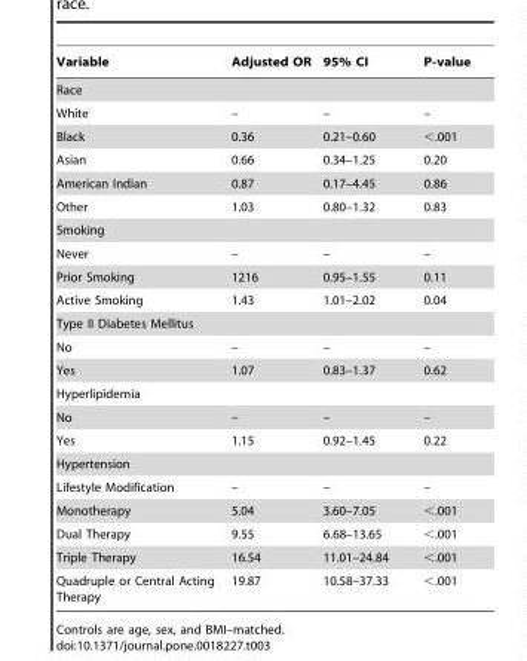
<table><thead><tr><td>Variable</td><td>Adjusted OR</td><td>95% CI</td><td>P-value</td></tr></thead><tbody><tr><td colspan="4">Race</td></tr><tr><td>White</td><td>–</td><td>–</td><td>–</td></tr><tr><td>Black</td><td>0.36</td><td>0.21–0.60</td><td>&lt;.001</td></tr><tr><td>Asian</td><td>0.66</td><td>0.34–1.25</td><td>0.20</td></tr><tr><td>American Indian</td><td>0.87</td><td>0.17–4.45</td><td>0.86</td></tr><tr><td>Other</td><td>1.03</td><td>0.80–1.32</td><td>0.83</td></tr><tr><td colspan="4">Smoking</td></tr><tr><td>Never</td><td>–</td><td>–</td><td>–</td></tr><tr><td>Prior Smoking</td><td>1216</td><td>0.95–1.55</td><td>0.11</td></tr><tr><td>Active Smoking</td><td>1.43</td><td>1.01–2.02</td><td>0.04</td></tr><tr><td colspan="4">Type II Diabetes Mellitus</td></tr><tr><td>No</td><td>–</td><td>–</td><td>–</td></tr><tr><td>Yes</td><td>1.07</td><td>0.83–1.37</td><td>0.62</td></tr><tr><td colspan="4">Hyperlipidemia</td></tr><tr><td>No</td><td>–</td><td>–</td><td>–</td></tr><tr><td>Yes</td><td>1.15</td><td>0.92–1.45</td><td>0.22</td></tr><tr><td colspan="4">Hypertension</td></tr><tr><td>Lifestyle Modification</td><td>–</td><td>–</td><td>–</td></tr><tr><td>Monotherapy</td><td>5.04</td><td>3.60–7.05</td><td>&lt;.001</td></tr><tr><td>Dual Therapy</td><td>9.55</td><td>6.68–13.65</td><td>&lt;.001</td></tr><tr><td>Triple Therapy</td><td>16.54</td><td>11.01–24.84</td><td>&lt;.001</td></tr><tr><td>Quadruple or Central Acting Therapy</td><td>19.87</td><td>10.58–37.33</td><td>&lt;.001</td></tr></tbody></table>